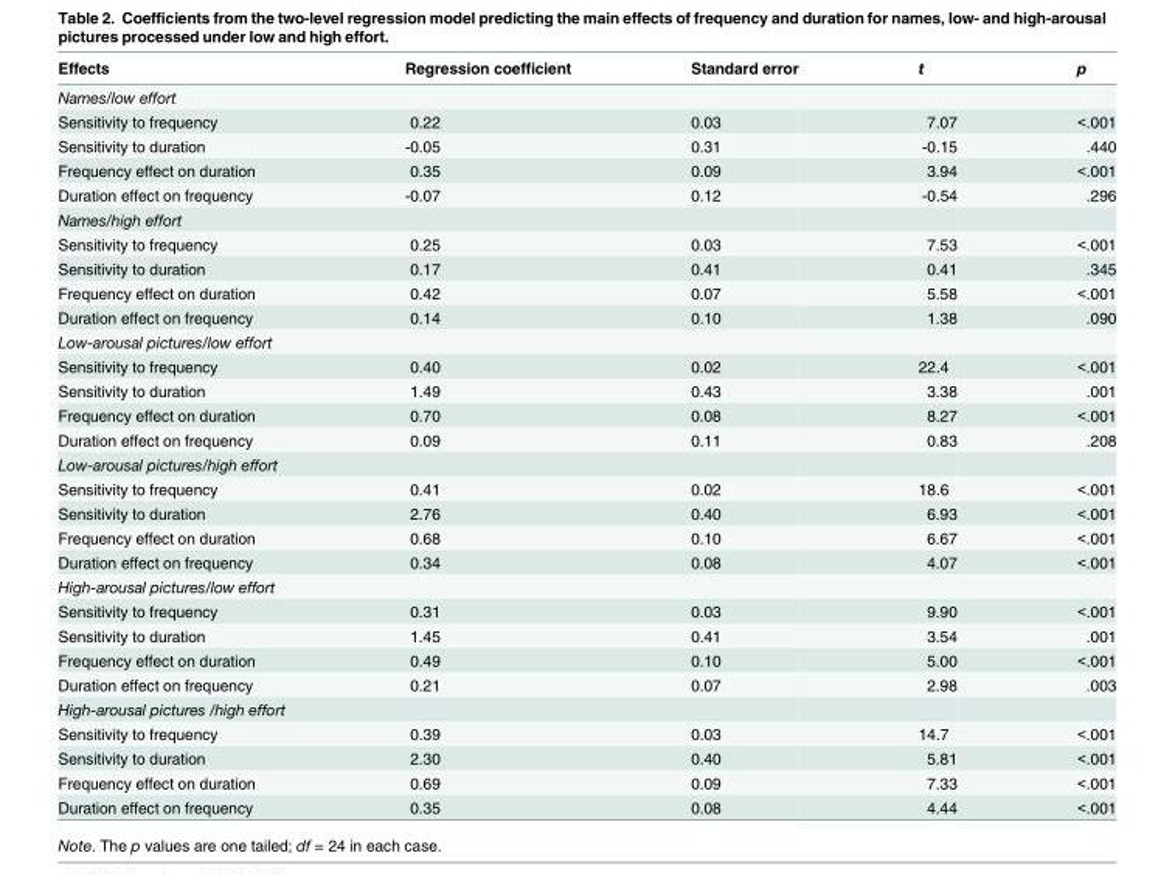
<table><thead><tr><td>Effects</td><td>Regression coefficient</td><td>Standard error</td><td>t</td><td>p</td></tr></thead><tbody><tr><td colspan="5">Names/low effort</td></tr><tr><td>Sensitivity to frequency</td><td>0.22</td><td>0.03</td><td>7.07</td><td>&lt;.001</td></tr><tr><td>Sensitivity to duration</td><td>-0.05</td><td>0.31</td><td>-0.15</td><td>.440</td></tr><tr><td>Frequency effect on duration</td><td>0.35</td><td>0.09</td><td>3.94</td><td>&lt;.001</td></tr><tr><td>Duration effect on frequency</td><td>-0.07</td><td>0.12</td><td>-0.54</td><td>.296</td></tr><tr><td colspan="5">Names/high effort</td></tr><tr><td>Sensitivity to frequency</td><td>0.25</td><td>0.03</td><td>7.53</td><td>&lt;.001</td></tr><tr><td>Sensitivity to duration</td><td>0.17</td><td>0.41</td><td>0.41</td><td>.345</td></tr><tr><td>Frequency effect on duration</td><td>0.42</td><td>0.07</td><td>5.58</td><td>&lt;.001</td></tr><tr><td>Duration effect on frequency</td><td>0.14</td><td>0.10</td><td>1.38</td><td>.090</td></tr><tr><td colspan="5">Low-arousal pictures/low effort</td></tr><tr><td>Sensitivity to frequency</td><td>0.40</td><td>0.02</td><td>22.4</td><td>&lt;.001</td></tr><tr><td>Sensitivity to duration</td><td>1.49</td><td>0.43</td><td>3.38</td><td>.001</td></tr><tr><td>Frequency effect on duration</td><td>0.70</td><td>0.08</td><td>8.27</td><td>&lt;.001</td></tr><tr><td>Duration effect on frequency</td><td>0.09</td><td>0.11</td><td>0.83</td><td>.208</td></tr><tr><td colspan="5">Low-arousal pictures/high effort</td></tr><tr><td>Sensitivity to frequency</td><td>0.41</td><td>0.02</td><td>18.6</td><td>&lt;.001</td></tr><tr><td>Sensitivity to duration</td><td>2.76</td><td>0.40</td><td>6.93</td><td>&lt;.001</td></tr><tr><td>Frequency effect on duration</td><td>0.68</td><td>0.10</td><td>6.67</td><td>&lt;.001</td></tr><tr><td>Duration effect on frequency</td><td>0.34</td><td>0.08</td><td>4.07</td><td>&lt;.001</td></tr><tr><td colspan="5">High-arousal pictures/low effort</td></tr><tr><td>Sensitivity to frequency</td><td>0.31</td><td>0.03</td><td>9.90</td><td>&lt;.001</td></tr><tr><td>Sensitivity to duration</td><td>1.45</td><td>0.41</td><td>3.54</td><td>.001</td></tr><tr><td>Frequency effect on duration</td><td>0.49</td><td>0.10</td><td>5.00</td><td>&lt;.001</td></tr><tr><td>Duration effect on frequency</td><td>0.21</td><td>0.07</td><td>2.98</td><td>.003</td></tr><tr><td colspan="5">High-arousal pictures /high effort</td></tr><tr><td>Sensitivity to frequency</td><td>0.39</td><td>0.03</td><td>14.7</td><td>&lt;.001</td></tr><tr><td>Sensitivity to duration</td><td>2.30</td><td>0.40</td><td>5.81</td><td>&lt;.001</td></tr><tr><td>Frequency effect on duration</td><td>0.69</td><td>0.09</td><td>7.33</td><td>&lt;.001</td></tr><tr><td>Duration effect on frequency</td><td>0.35</td><td>0.08</td><td>4.44</td><td>&lt;.001</td></tr></tbody></table>